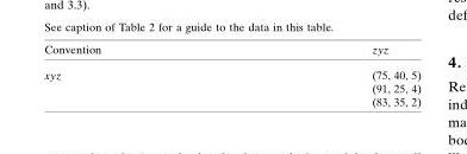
<table><thead><tr><td>Convention</td><td>zyz</td></tr></thead><tbody><tr><td rowspan="3">xyz</td><td>(75, 40, 5)</td></tr><tr><td>(91, 25, 4)</td></tr><tr><td>(83, 35, 2)</td></tr></tbody></table>